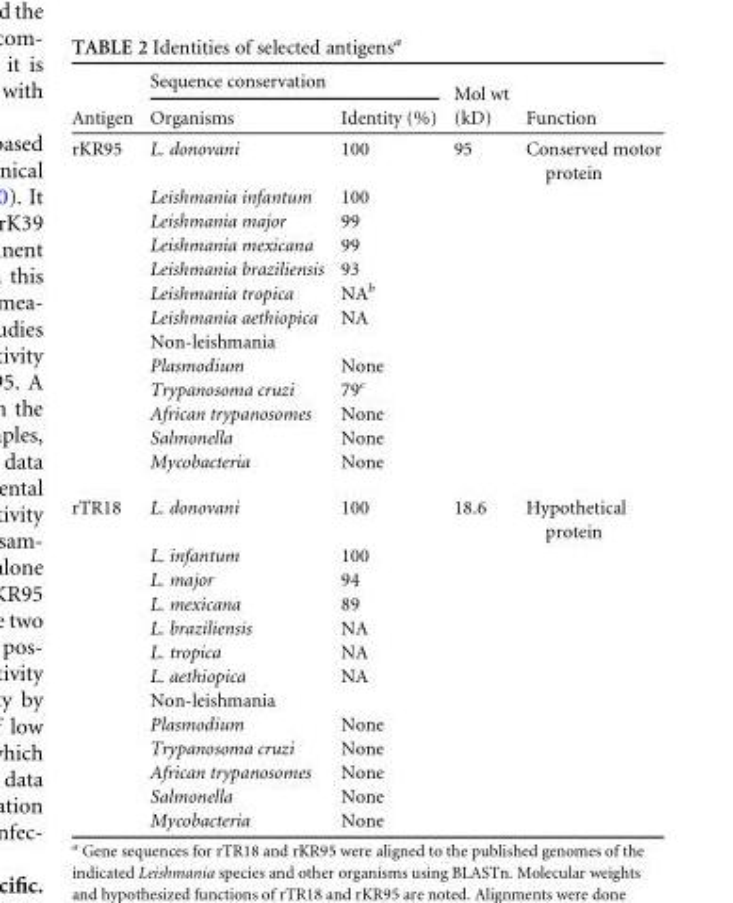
<table><thead><tr><td rowspan="2">Antigen</td><td colspan="2">Sequence conservation</td><td rowspan="2">Mol wt (kD)</td><td rowspan="2">Function</td></tr><tr><td>Organisms</td><td>Identity (%)</td></tr></thead><tbody><tr><td rowspan="13">rKR95</td><td>L. donovani</td><td>100</td><td>95</td><td>Conserved motor protein</td></tr><tr><td>Leishmania infantum</td><td>100</td><td></td><td></td></tr><tr><td>Leishmania major</td><td>99</td><td></td><td></td></tr><tr><td>Leishmania mexicana</td><td>99</td><td></td><td></td></tr><tr><td>Leishmania braziliensis</td><td>93</td><td></td><td></td></tr><tr><td>Leishmania tropica</td><td>NA<sup>b</sup></td><td></td><td></td></tr><tr><td>Leishmania aethiopica</td><td>NA</td><td></td><td></td></tr><tr><td>Non-leishmania</td><td></td><td></td><td></td></tr><tr><td>Plasmodium</td><td>None</td><td></td><td></td></tr><tr><td>Trypanosoma cruzi</td><td>79<sup>c</sup></td><td></td><td></td></tr><tr><td>African trypanosomes</td><td>None</td><td></td><td></td></tr><tr><td>Salmonella</td><td>None</td><td></td><td></td></tr><tr><td>Mycobacteria</td><td>None</td><td></td><td></td></tr><tr><td rowspan="13">rTR18</td><td>L. donovani</td><td>100</td><td>18.6</td><td>Hypothetical protein</td></tr><tr><td>L. infantum</td><td>100</td><td></td><td></td></tr><tr><td>L. major</td><td>94</td><td></td><td></td></tr><tr><td>L. mexicana</td><td>89</td><td></td><td></td></tr><tr><td>L. braziliensis</td><td>NA</td><td></td><td></td></tr><tr><td>L. tropica</td><td>NA</td><td></td><td></td></tr><tr><td>L. aethiopica</td><td>NA</td><td></td><td></td></tr><tr><td>Non-leishmania</td><td></td><td></td><td></td></tr><tr><td>Plasmodium</td><td>None</td><td></td><td></td></tr><tr><td>Trypanosoma cruzi</td><td>None</td><td></td><td></td></tr><tr><td>African trypanosomes</td><td>None</td><td></td><td></td></tr><tr><td>Salmonella</td><td>None</td><td></td><td></td></tr><tr><td>Mycobacteria</td><td>None</td><td></td><td></td></tr></tbody></table>